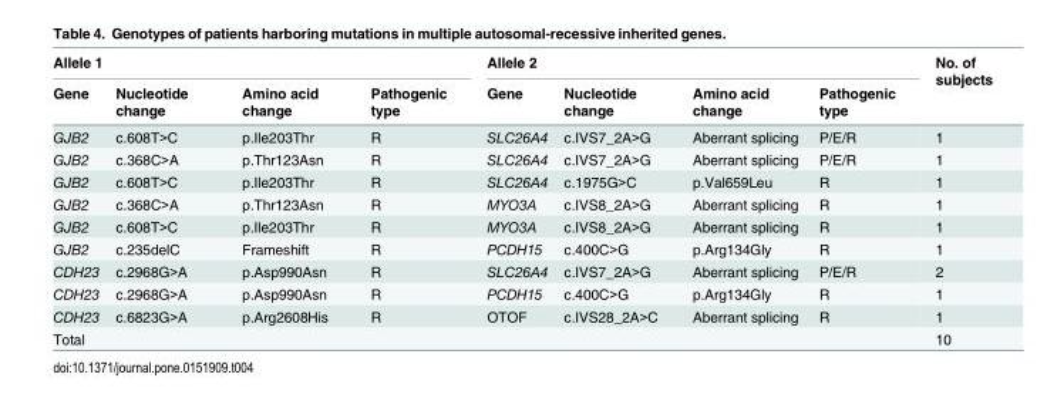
<table><thead><tr><td colspan="4">Allele 1</td><td colspan="4">Allele 2</td><td rowspan="2">No. of subjects</td></tr><tr><td>Gene</td><td>Nucleotide change</td><td>Amino acid change</td><td>Pathogenic type</td><td>Gene</td><td>Nucleotide change</td><td>Amino acid change</td><td>Pathogenic type</td></tr></thead><tbody><tr><td>GJB2</td><td>c.608T&gt;C</td><td>p.Ile203Thr</td><td>R</td><td>SLC26A4</td><td>c.IVS7_2A&gt;G</td><td>Aberrant splicing</td><td>P/E/R</td><td>1</td></tr><tr><td>GJB2</td><td>c.368C&gt;A</td><td>p.Thr123Asn</td><td>R</td><td>SLC26A4</td><td>c.IVS7_2A&gt;G</td><td>Aberrant splicing</td><td>P/E/R</td><td>1</td></tr><tr><td>GJB2</td><td>c.608T&gt;C</td><td>p.Ile203Thr</td><td>R</td><td>SLC26A4</td><td>c.1975G&gt;C</td><td>p.Val659Leu</td><td>R</td><td>1</td></tr><tr><td>GJB2</td><td>c.368C&gt;A</td><td>p.Thr123Asn</td><td>R</td><td>MYO3A</td><td>c.IVS8_2A&gt;G</td><td>Aberrant splicing</td><td>R</td><td>1</td></tr><tr><td>GJB2</td><td>c.608T&gt;C</td><td>p.Ile203Thr</td><td>R</td><td>MYO3A</td><td>c.IVS8_2A&gt;G</td><td>Aberrant splicing</td><td>R</td><td>1</td></tr><tr><td>GJB2</td><td>c.235delC</td><td>Frameshift</td><td>R</td><td>PCDH15</td><td>c.400C&gt;G</td><td>p.Arg134Gly</td><td>R</td><td>1</td></tr><tr><td>CDH23</td><td>c.2968G&gt;A</td><td>p.Asp990Asn</td><td>R</td><td>SLC26A4</td><td>c.IVS7_2A&gt;G</td><td>Aberrant splicing</td><td>P/E/R</td><td>2</td></tr><tr><td>CDH23</td><td>c.2968G&gt;A</td><td>p.Asp990Asn</td><td>R</td><td>PCDH15</td><td>c.400C&gt;G</td><td>p.Arg134Gly</td><td>R</td><td>1</td></tr><tr><td>CDH23</td><td>c.6823G&gt;A</td><td>p.Arg2608His</td><td>R</td><td>OTOF</td><td>c.IVS28_2A&gt;C</td><td>Aberrant splicing</td><td>R</td><td>1</td></tr><tr><td>Total</td><td></td><td></td><td></td><td></td><td></td><td></td><td></td><td>10</td></tr></tbody></table>